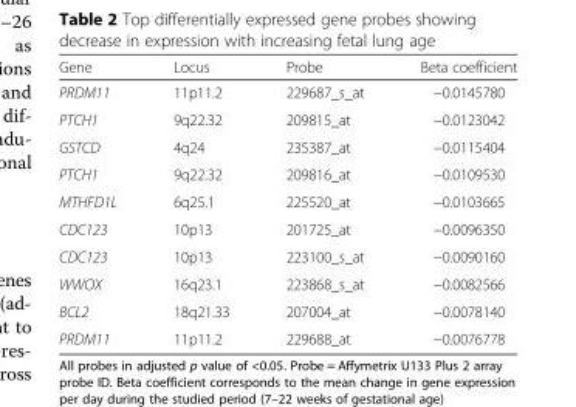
<table><thead><tr><td>Gene</td><td>Locus</td><td>Probe</td><td>Beta coefficient</td></tr></thead><tbody><tr><td>PRDM11</td><td>11p11.2</td><td>229687_s_at</td><td>−0.0145780</td></tr><tr><td>PTCH1</td><td>9q22.32</td><td>209815_at</td><td>−0.0123042</td></tr><tr><td>GSTCD</td><td>4q24</td><td>235387_at</td><td>−0.0115404</td></tr><tr><td>PTCH1</td><td>9q22.32</td><td>209816_at</td><td>−0.0109530</td></tr><tr><td>MTHFD1L</td><td>6q25.1</td><td>225520_at</td><td>−0.0103665</td></tr><tr><td>CDC123</td><td>10p13</td><td>201725_at</td><td>−0.0096350</td></tr><tr><td>CDC123</td><td>10p13</td><td>223100_s_at</td><td>−0.0090160</td></tr><tr><td>WWOX</td><td>16q23.1</td><td>223868_s_at</td><td>−0.0082566</td></tr><tr><td>BCL2</td><td>18q21.33</td><td>207004_at</td><td>−0.0078140</td></tr><tr><td>PRDM11</td><td>11p11.2</td><td>229688_at</td><td>−0.0076778</td></tr></tbody></table>